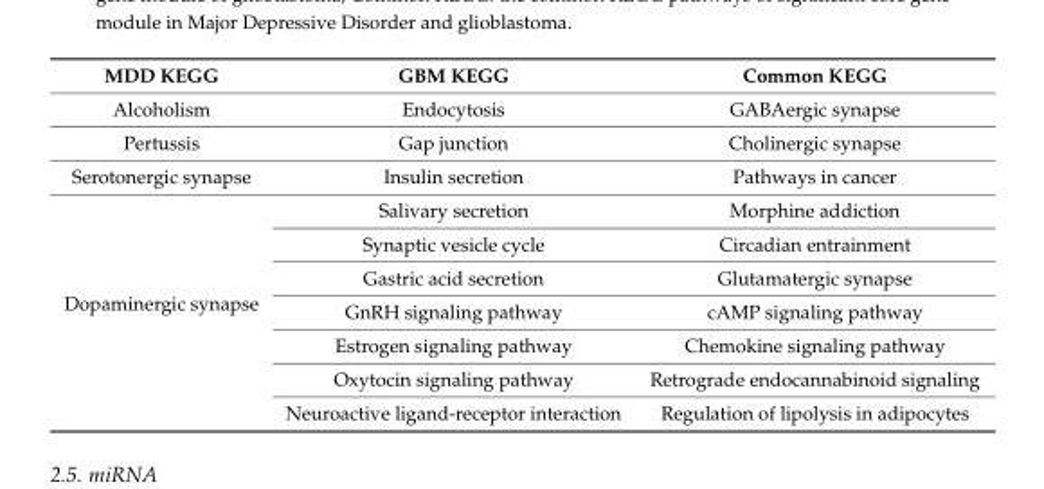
<table><thead><tr><td>MDD KEGG</td><td>GBM KEGG</td><td>Common KEGG</td></tr></thead><tbody><tr><td>Alcoholism</td><td>Endocytosis</td><td>GABAergic synapse</td></tr><tr><td>Pertussis</td><td>Gap junction</td><td>Cholinergic synapse</td></tr><tr><td>Serotonergic synapse</td><td>Insulin secretion</td><td>Pathways in cancer</td></tr><tr><td rowspan="7">Dopaminergic synapse</td><td>Salivary secretion</td><td>Morphine addiction</td></tr><tr><td>Synaptic vesicle cycle</td><td>Circadian entrainment</td></tr><tr><td>Gastric acid secretion</td><td>Glutamatergic synapse</td></tr><tr><td>GnRH signaling pathway</td><td>cAMP signaling pathway</td></tr><tr><td>Estrogen signaling pathway</td><td>Chemokine signaling pathway</td></tr><tr><td>Oxytocin signaling pathway</td><td>Retrograde endocannabinoid signaling</td></tr><tr><td>Neuroactive ligand-receptor interaction</td><td>Regulation of lipolysis in adipocytes</td></tr></tbody></table>